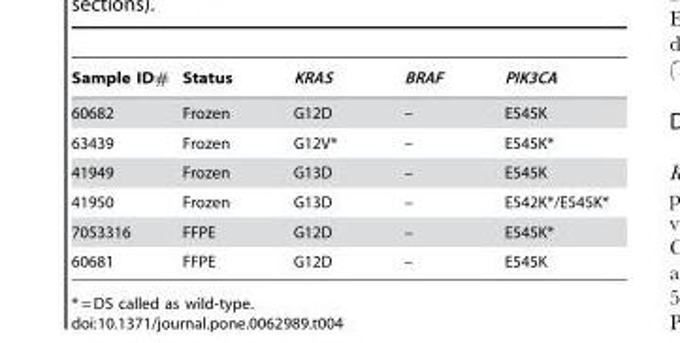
<table><thead><tr><td>Sample ID#</td><td>Status</td><td>KRAS</td><td>BRAF</td><td>PIK3CA</td></tr></thead><tbody><tr><td>60682</td><td>Frozen</td><td>G12D</td><td>–</td><td>E545K</td></tr><tr><td>63439</td><td>Frozen</td><td>G12V*</td><td>–</td><td>E545K*</td></tr><tr><td>41949</td><td>Frozen</td><td>G13D</td><td>–</td><td>E545K</td></tr><tr><td>41950</td><td>Frozen</td><td>G13D</td><td>–</td><td>E542K*/E545K*</td></tr><tr><td>7053316</td><td>FFPE</td><td>G12D</td><td>–</td><td>E545K*</td></tr><tr><td>60681</td><td>FFPE</td><td>G12D</td><td>–</td><td>E545K</td></tr></tbody></table>